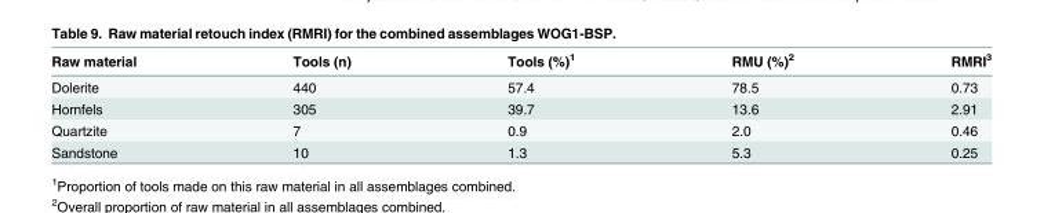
<table><thead><tr><td>Raw material</td><td>Tools (n)</td><td>Tools (%)<sup>1</sup></td><td>RMU (%)<sup>2</sup></td><td>RMRI<sup>3</sup></td></tr></thead><tbody><tr><td>Dolerite</td><td>440</td><td>57.4</td><td>78.5</td><td>0.73</td></tr><tr><td>Hornfels</td><td>305</td><td>39.7</td><td>13.6</td><td>2.91</td></tr><tr><td>Quartzite</td><td>7</td><td>0.9</td><td>2.0</td><td>0.46</td></tr><tr><td>Sandstone</td><td>10</td><td>1.3</td><td>5.3</td><td>0.25</td></tr></tbody></table>